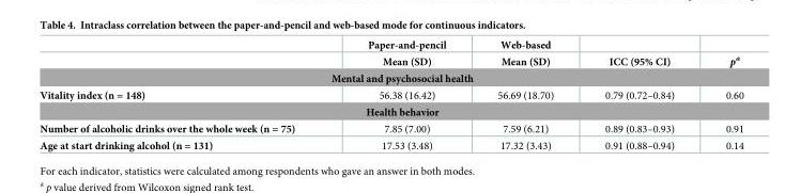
<table><thead><tr><td rowspan="2"></td><td rowspan="2">Paper-and-pencil Mean (SD)</td><td rowspan="2">Web-based Mean (SD)</td><td rowspan="2">ICC (95% CI)</td><td rowspan="2">p<sup>a</sup></td></tr><tr></tr></thead><tbody><tr><td colspan="5">Mental and psychosocial health</td></tr><tr><td>Vitality index (n = 148)</td><td>56.38 (16.42)</td><td>56.69 (18.70)</td><td>0.79 (0.72–0.84)</td><td>0.60</td></tr><tr><td colspan="5">Health behavior</td></tr><tr><td>Number of alcoholic drinks over the whole week (n = 75)</td><td>7.85 (7.00)</td><td>7.59 (6.21)</td><td>0.89 (0.83–0.93)</td><td>0.91</td></tr><tr><td>Age at start drinking alcohol (n = 131)</td><td>17.53 (3.48)</td><td>17.32 (3.43)</td><td>0.91 (0.88–0.94)</td><td>0.14</td></tr></tbody></table>